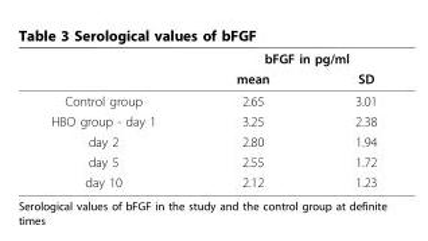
<table><thead><tr><td rowspan="2"></td><td colspan="2">bFGF in pg/ml</td></tr><tr><td>mean</td><td>SD</td></tr></thead><tbody><tr><td>Control group</td><td>2.65</td><td>3.01</td></tr><tr><td>HBO group - day 1</td><td>3.25</td><td>2.38</td></tr><tr><td>day 2</td><td>2.80</td><td>1.94</td></tr><tr><td>day 5</td><td>2.55</td><td>1.72</td></tr><tr><td>day 10</td><td>2.12</td><td>1.23</td></tr></tbody></table>